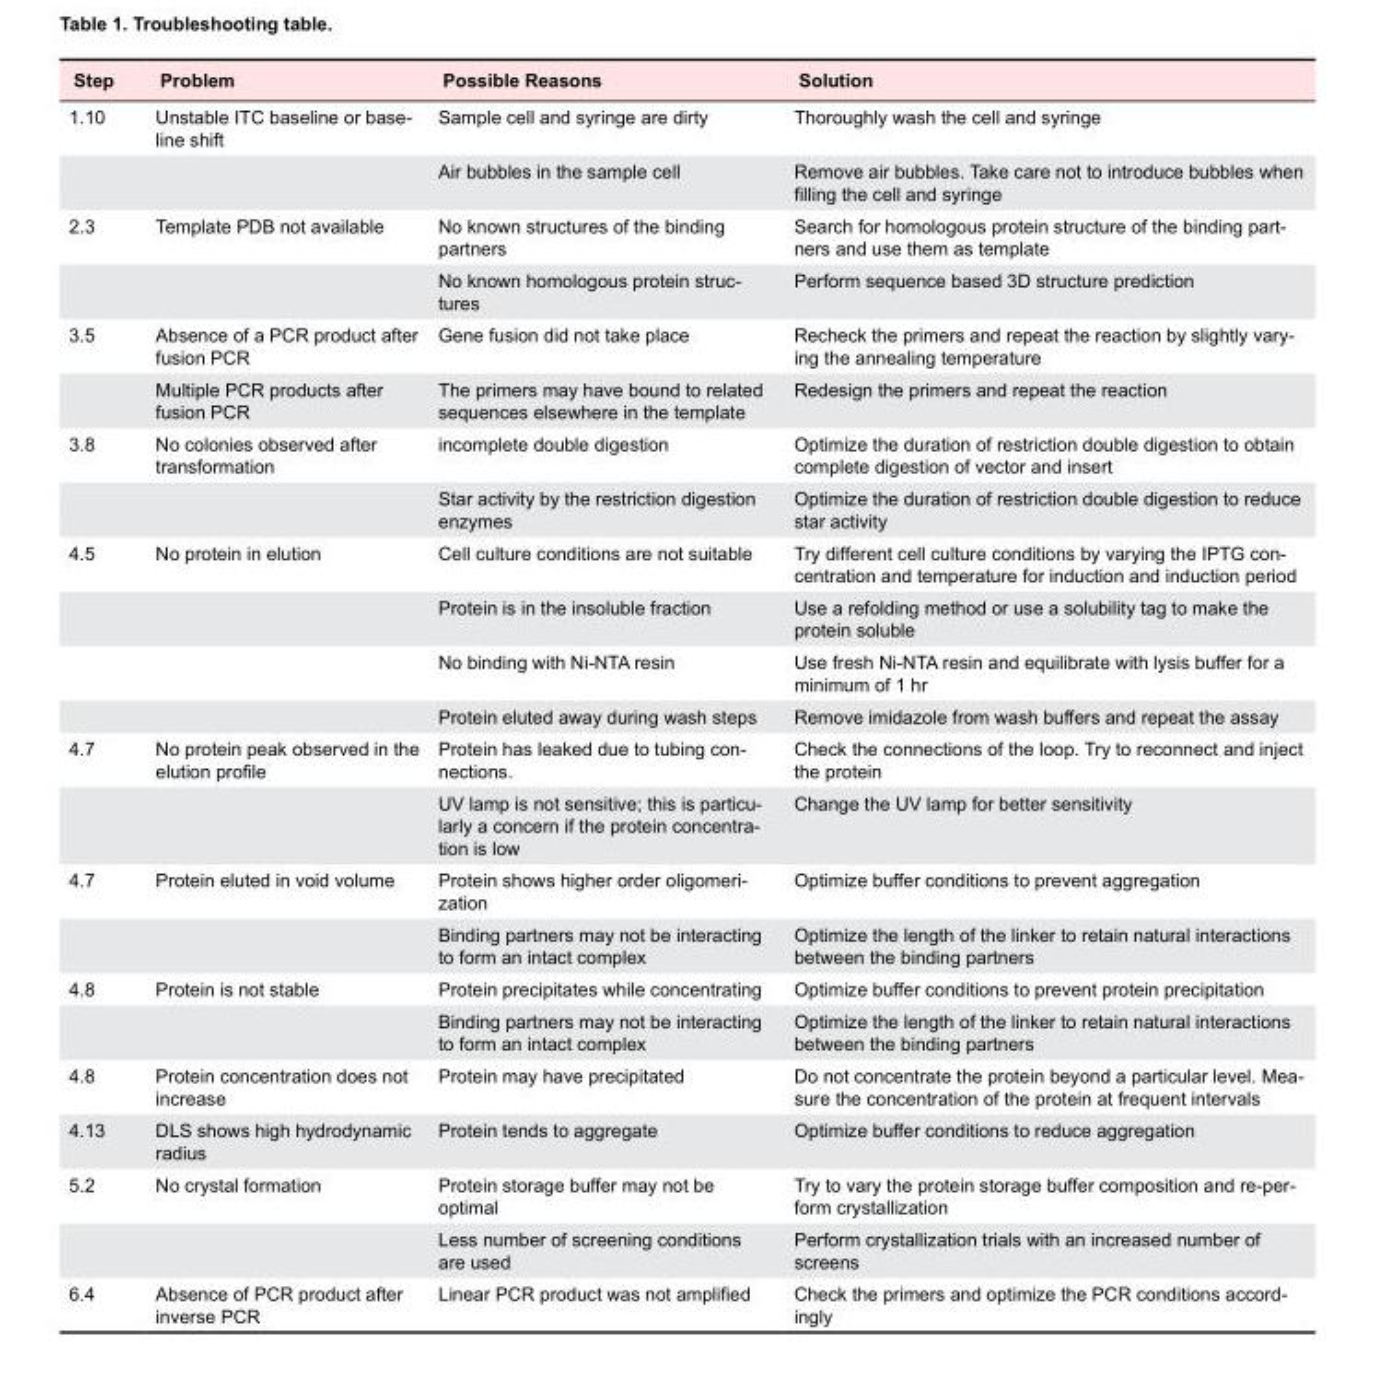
<table><tbody><tr><td>Step</td><td>Problem</td><td>Possible Reasons</td><td>Solution</td></tr><tr><td rowspan="2">1.10</td><td>Unstable ITC baseline or base- line shift</td><td>Sample cell and syringe are dirty</td><td>Thoroughly wash the cell and syringe</td></tr><tr><td></td><td>Air bubbles in the sample cell</td><td>Remove air bubbles. Take care not to introduce bubbles when filling the cell and syringe</td></tr><tr><td rowspan="2">2.3</td><td>Template PDB not available</td><td>No known structures of the binding partners</td><td>Search for homologous protein structure of the binding part- ners and use them as template</td></tr><tr><td></td><td>No known homologous protein struc- tures</td><td>Perform sequence based 3D structure prediction</td></tr><tr><td rowspan="2">3.5</td><td>Absence of a PCR product after fusion PCR</td><td>Gene fusion did not take place</td><td>Recheck the primers and repeat the reaction by slightly vary- ing the annealing temperature</td></tr><tr><td>Multiple PCR products after fusion PCR</td><td>The primers may have bound to related sequences elsewhere in the template</td><td>Redesign the primers and repeat the reaction</td></tr><tr><td rowspan="2">3.8</td><td>No colonies observed after transformation</td><td>incomplete double digestion</td><td>Optimize the duration of restriction double digestion to obtain complete digestion of vector and insert</td></tr><tr><td></td><td>Star activity by the restriction digestion enzymes</td><td>Optimize the duration of restriction double digestion to reduce star activity</td></tr><tr><td rowspan="4">4.5</td><td>No protein in elution</td><td>Cell culture conditions are not suitable</td><td>Try different cell culture conditions by varying the IPTG con- centration and temperature for induction and induction period</td></tr><tr><td></td><td>Protein is in the insoluble fraction</td><td>Use a refolding method or use a solubility tag to make the protein soluble</td></tr><tr><td></td><td>No binding with Ni-NTA resin</td><td>Use fresh Ni-NTA resin and equilibrate with lysis buffer for a minimum of 1 hr</td></tr><tr><td></td><td>Protein eluted away during wash steps</td><td>Remove imidazole from wash buffers and repeat the assay</td></tr><tr><td rowspan="2">4.7</td><td>No protein peak observed in the elution profile</td><td>Protein has leaked due to tubing con- nections.</td><td>Check the connections of the loop. Try to reconnect and inject the protein</td></tr><tr><td></td><td>UV lamp is not sensitive; this is particu- larly a concern if the protein concentra- tion is low</td><td>Change the UV lamp for better sensitivity</td></tr><tr><td rowspan="2">4.7</td><td>Protein eluted in void volume</td><td>Protein shows higher order oligomeri- zation</td><td>Optimize buffer conditions to prevent aggregation</td></tr><tr><td></td><td>Binding partners may not be interacting to form an intact complex</td><td>Optimize the length of the linker to retain natural interactions between the binding partners</td></tr><tr><td rowspan="2">4.8</td><td>Protein is not stable</td><td>Protein precipitates while concentrating</td><td>Optimize buffer conditions to prevent protein precipitation</td></tr><tr><td></td><td>Binding partners may not be interacting to form an intact complex</td><td>Optimize the length of the linker to retain natural interactions between the binding partners</td></tr><tr><td>4.8</td><td>Protein concentration does not increase</td><td>Protein may have precipitated</td><td>Do not concentrate the protein beyond a particular level. Mea- sure the concentration of the protein at frequent intervals</td></tr><tr><td>4.13</td><td>DLS shows high hydrodynamic radius</td><td>Protein tends to aggregate</td><td>Optimize buffer conditions to reduce aggregation</td></tr><tr><td rowspan="2">5.2</td><td>No crystal formation</td><td>Protein storage buffer may not be optimal</td><td>Try to vary the protein storage buffer composition and re-per- form crystallization</td></tr><tr><td></td><td>Less number of screening conditions are used</td><td>Perform crystallization trials with an increased number of screens</td></tr><tr><td>6.4</td><td>Absence of PCR product after inverse PCR</td><td>Linear PCR product was not amplified</td><td>Check the primers and optimize the PCR conditions accord- ingly</td></tr></tbody></table>